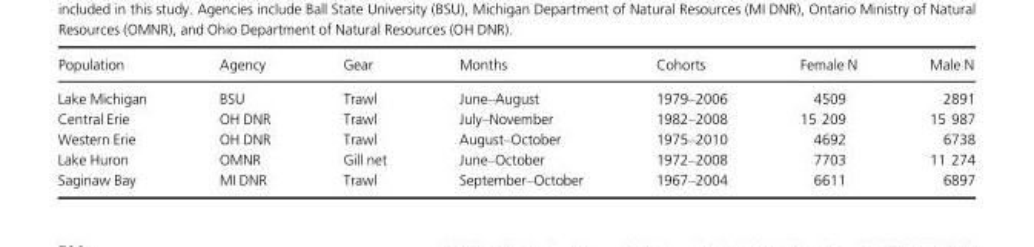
<table><thead><tr><td>Population</td><td>Agency</td><td>Gear</td><td>Months</td><td>Cohorts</td><td>Female N</td><td>Male N</td></tr></thead><tbody><tr><td>Lake Michigan</td><td>BSU</td><td>Trawl</td><td>June–August</td><td>1979–2006</td><td>4509</td><td>2891</td></tr><tr><td>Central Erie</td><td>OH DNR</td><td>Trawl</td><td>July–November</td><td>1982–2008</td><td>15 209</td><td>15 987</td></tr><tr><td>Western Erie</td><td>OH DNR</td><td>Trawl</td><td>August–October</td><td>1975–2010</td><td>4692</td><td>6738</td></tr><tr><td>Lake Huron</td><td>OMNR</td><td>Gill net</td><td>June–October</td><td>1972–2008</td><td>7703</td><td>11 274</td></tr><tr><td>Saginaw Bay</td><td>MI DNR</td><td>Trawl</td><td>September–October</td><td>1967–2004</td><td>6611</td><td>6897</td></tr></tbody></table>